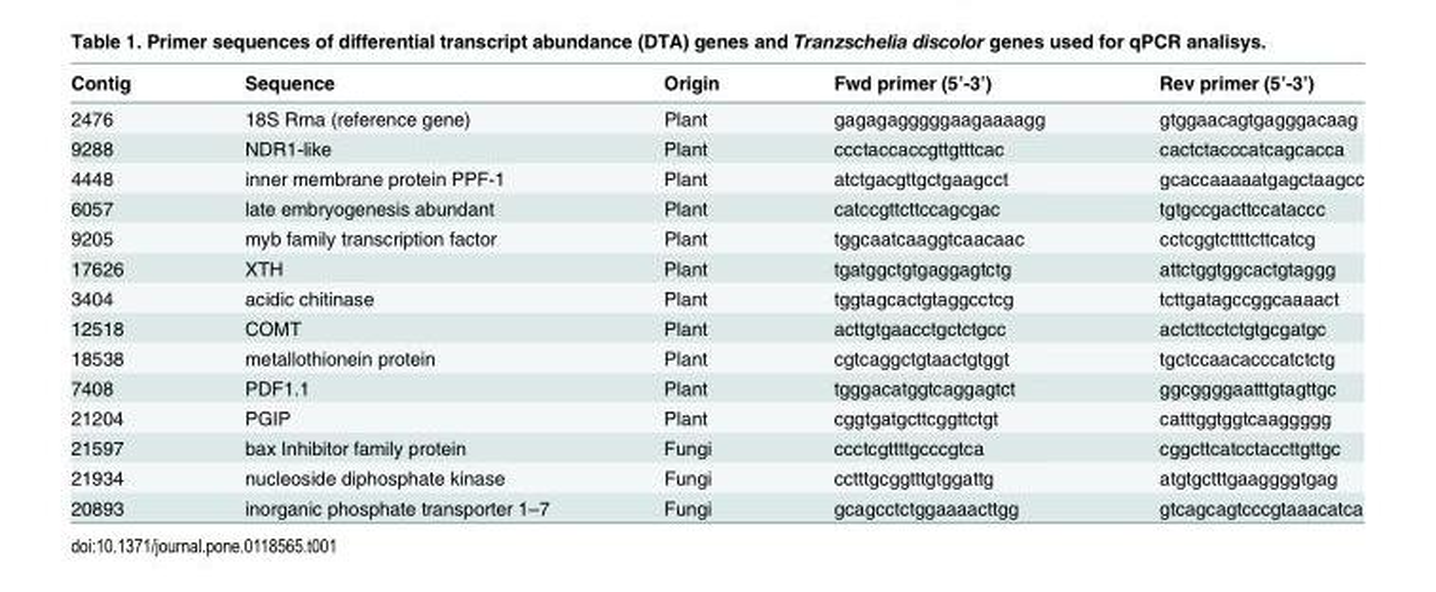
<table><thead><tr><td>Contig</td><td>Sequence</td><td>Origin</td><td>Fwd primer (5’-3’)</td><td>Rev primer (5’-3’)</td></tr></thead><tbody><tr><td>2476</td><td>18S Rrna (reference gene)</td><td>Plant</td><td>gagagagggggaagaaaagg</td><td>gtggaacagtgagggacaag</td></tr><tr><td>9288</td><td>NDR1-like</td><td>Plant</td><td>ccctaccaccgttgtttcac</td><td>cactctacccatcagcacca</td></tr><tr><td>4448</td><td>inner membrane protein PPF-1</td><td>Plant</td><td>atctgacgttgctgaagcct</td><td>gcaccaaaaatgagctaagcc</td></tr><tr><td>6057</td><td>late embryogenesis abundant</td><td>Plant</td><td>catccgttcttccagcgac</td><td>tgtgccgacttccataccc</td></tr><tr><td>9205</td><td>myb family transcription factor</td><td>Plant</td><td>tggcaatcaaggtcaacaac</td><td>cctcggtcttttcttcatcg</td></tr><tr><td>17626</td><td>XTH</td><td>Plant</td><td>tgatggctgtgaggagtctg</td><td>attctggtggcactgtaggg</td></tr><tr><td>3404</td><td>acidic chitinase</td><td>Plant</td><td>tggtagcactgtaggcctcg</td><td>tcttgatagccggcaaaact</td></tr><tr><td>12518</td><td>COMT</td><td>Plant</td><td>acttgtgaacctgctctgcc</td><td>actcttcctctgtgcgatgc</td></tr><tr><td>18538</td><td>metallothionein protein</td><td>Plant</td><td>cgtcaggctgtaactgtggt</td><td>tgctccaacacccatctctg</td></tr><tr><td>7408</td><td>PDF1.1</td><td>Plant</td><td>tgggacatggtcaggagtct</td><td>ggcggggaatttgtagttgc</td></tr><tr><td>21204</td><td>PGIP</td><td>Plant</td><td>cggtgatgcttcggttctgt</td><td>catttggtggtcaaggggg</td></tr><tr><td>21597</td><td>bax Inhibitor family protein</td><td>Fungi</td><td>ccctcgttttgcccgtca</td><td>cggcttcatcctaccttgttgc</td></tr><tr><td>21934</td><td>nucleoside diphosphate kinase</td><td>Fungi</td><td>cctttgcggtttgtggattg</td><td>atgtgctttgaaggggtgag</td></tr><tr><td>20893</td><td>inorganic phosphate transporter 1–7</td><td>Fungi</td><td>gcagcctctggaaaacttgg</td><td>gtcagcagtcccgtaaacatca</td></tr></tbody></table>